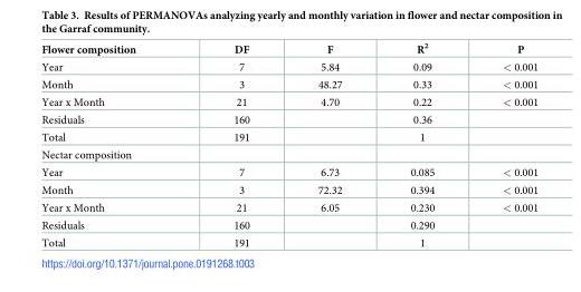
<table><thead><tr><td>Flower composition</td><td>DF</td><td>F</td><td>R<sup>2</sup></td><td>P</td></tr></thead><tbody><tr><td>Year</td><td>7</td><td>5.84</td><td>0.09</td><td>&lt; 0.001</td></tr><tr><td>Month</td><td>3</td><td>48.27</td><td>0.33</td><td>&lt; 0.001</td></tr><tr><td>Year x Month</td><td>21</td><td>4.70</td><td>0.22</td><td>&lt; 0.001</td></tr><tr><td>Residuals</td><td>160</td><td></td><td>0.36</td><td></td></tr><tr><td>Total</td><td>191</td><td></td><td>1</td><td></td></tr><tr><td colspan="5">Nectar composition</td></tr><tr><td>Year</td><td>7</td><td>6.73</td><td>0.085</td><td>&lt; 0.001</td></tr><tr><td>Month</td><td>3</td><td>72.32</td><td>0.394</td><td>&lt; 0.001</td></tr><tr><td>Year x Month</td><td>21</td><td>6.05</td><td>0.230</td><td>&lt; 0.001</td></tr><tr><td>Residuals</td><td>160</td><td></td><td>0.290</td><td></td></tr><tr><td>Total</td><td>191</td><td></td><td>1</td><td></td></tr></tbody></table>